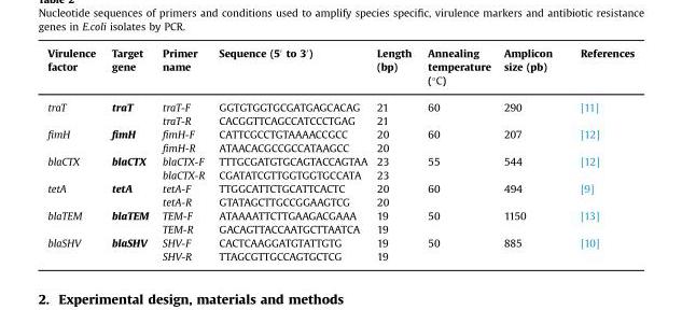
<table><thead><tr><td>Virulence factor</td><td>Target gene</td><td>Primer name</td><td>Sequence (5′ to 3′)</td><td>Length (bp)</td><td>Annealing temperature (°C)</td><td>Amplicon size (pb)</td><td>References</td></tr></thead><tbody><tr><td rowspan="2">traT</td><td rowspan="2">traT</td><td>traT-F</td><td>GGTGTGGTGCGATGAGCACAG</td><td>21</td><td rowspan="2">60</td><td rowspan="2">290</td><td rowspan="2">[11]</td></tr><tr><td>traT-R</td><td>CACGGTTCAGCCATCCCTGAG</td><td>21</td></tr><tr><td rowspan="2">fimH</td><td rowspan="2">fimH</td><td>fimH-F</td><td>CATTCGCCTGTAAAACCGCC</td><td>20</td><td rowspan="2">60</td><td rowspan="2">207</td><td rowspan="2">[12]</td></tr><tr><td>fimH-R</td><td>ATAACACGCCGCCATAAGCC</td><td>20</td></tr><tr><td rowspan="2">blaCTX</td><td rowspan="2">blaCTX</td><td>blaCTX-F</td><td>TTTGCGATGTGCAGTACCAGTAA</td><td>23</td><td rowspan="2">55</td><td rowspan="2">544</td><td rowspan="2">[12]</td></tr><tr><td>blaCTX-R</td><td>CGATATCGTTGGTGGTGCCATA</td><td>23</td></tr><tr><td rowspan="2">tetA</td><td rowspan="2">tetA</td><td>tetA-F</td><td>TTGGCATTCTGCATTCACTC</td><td>20</td><td rowspan="2">60</td><td rowspan="2">494</td><td rowspan="2">[9]</td></tr><tr><td>tetA-R</td><td>GTATAGCTTGCCGGAAGTCG</td><td>20</td></tr><tr><td rowspan="2">blaTEM</td><td rowspan="2">blaTEM</td><td>TEM-F</td><td>ATAAAATTCTTGAAGACGAAA</td><td>19</td><td rowspan="2">50</td><td rowspan="2">1150</td><td rowspan="2">[13]</td></tr><tr><td>TEM-R</td><td>GACAGTTACCAATGCTTAATCA</td><td>19</td></tr><tr><td rowspan="2">blaSHV</td><td rowspan="2">blaSHV</td><td>SHV-F</td><td>CACTCAAGGATGTATTGTG</td><td>19</td><td rowspan="2">50</td><td rowspan="2">885</td><td rowspan="2">[10]</td></tr><tr><td>SHV-R</td><td>TTAGCGTTGCCAGTGCTCG</td><td>19</td></tr></tbody></table>